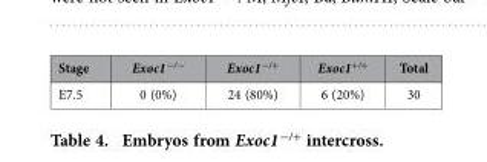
<table><thead><tr><td>Stage</td><td>Exoc1<sup>−/−</sup></td><td>Exoc1<sup>−/+</sup></td><td>Exoc1<sup>+/+</sup></td><td>Total</td></tr></thead><tbody><tr><td>E7.5</td><td>0 (0%)</td><td>24 (80%)</td><td>6 (20%)</td><td>30</td></tr></tbody></table>